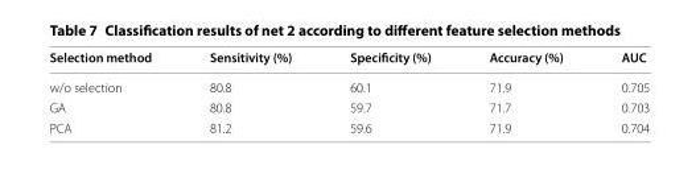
<table><thead><tr><td>Selection method</td><td>Sensitivity (%)</td><td>Specificity (%)</td><td>Accuracy (%)</td><td>AUC</td></tr></thead><tbody><tr><td>w/o selection</td><td>80.8</td><td>60.1</td><td>71.9</td><td>0.705</td></tr><tr><td>GA</td><td>80.8</td><td>59.7</td><td>71.7</td><td>0.703</td></tr><tr><td>PCA</td><td>81.2</td><td>59.6</td><td>71.9</td><td>0.704</td></tr></tbody></table>